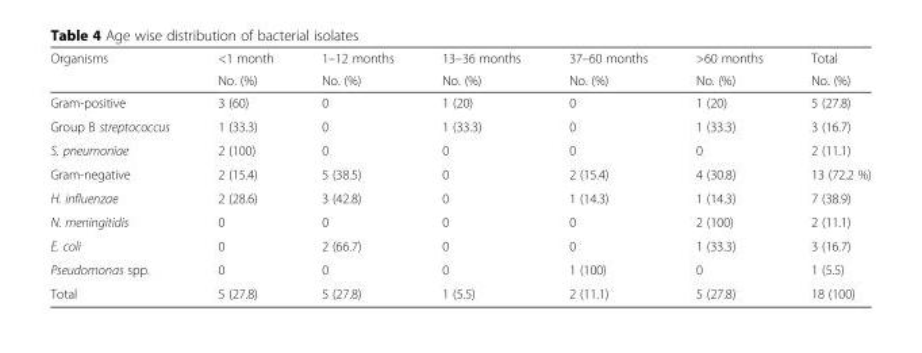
<table><thead><tr><td rowspan="2">Organisms</td><td rowspan="2">&lt;1 month No. (%)</td><td rowspan="2">1–12 months No. (%)</td><td rowspan="2">13–36 months No. (%)</td><td rowspan="2">37–60 months No. (%)</td><td rowspan="2">&gt;60 months No. (%)</td><td rowspan="2">Total No. (%)</td></tr><tr></tr></thead><tbody><tr><td>Gram-positive</td><td>3 (60)</td><td>0</td><td>1 (20)</td><td>0</td><td>1 (20)</td><td>5 (27.8)</td></tr><tr><td>Group B streptococcus</td><td>1 (33.3)</td><td>0</td><td>1 (33.3)</td><td>0</td><td>1 (33.3)</td><td>3 (16.7)</td></tr><tr><td>S. pneumoniae</td><td>2 (100)</td><td>0</td><td>0</td><td>0</td><td>0</td><td>2 (11.1)</td></tr><tr><td>Gram-negative</td><td>2 (15.4)</td><td>5 (38.5)</td><td>0</td><td>2 (15.4)</td><td>4 (30.8)</td><td>13 (72.2 %)</td></tr><tr><td>H. influenzae</td><td>2 (28.6)</td><td>3 (42.8)</td><td>0</td><td>1 (14.3)</td><td>1 (14.3)</td><td>7 (38.9)</td></tr><tr><td>N. meningitidis</td><td>0</td><td>0</td><td>0</td><td>0</td><td>2 (100)</td><td>2 (11.1)</td></tr><tr><td>E. coli</td><td>0</td><td>2 (66.7)</td><td>0</td><td>0</td><td>1 (33.3)</td><td>3 (16.7)</td></tr><tr><td>Pseudomonas spp.</td><td>0</td><td>0</td><td>0</td><td>1 (100)</td><td>0</td><td>1 (5.5)</td></tr><tr><td>Total</td><td>5 (27.8)</td><td>5 (27.8)</td><td>1 (5.5)</td><td>2 (11.1)</td><td>5 (27.8)</td><td>18 (100)</td></tr></tbody></table>